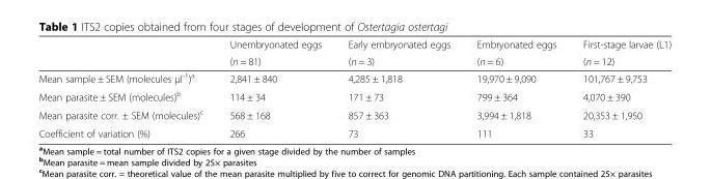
<table><thead><tr><td rowspan="2"></td><td rowspan="2">Unembryonated eggs (n = 81)</td><td rowspan="2">Early embryonated eggs (n = 3)</td><td rowspan="2">Embryonated eggs (n = 6)</td><td rowspan="2">First-stage larvae (L1) (n = 12)</td></tr><tr></tr></thead><tbody><tr><td>Mean sample ± SEM (molecules μl<sup>-1</sup>)<sup>a</sup></td><td>2,841 ± 840</td><td>4,285 ± 1,818</td><td>19,970 ± 9,090</td><td>101,767 ± 9,753</td></tr><tr><td>Mean parasite ± SEM (molecules)<sup>b</sup></td><td>114 ± 34</td><td>171 ± 73</td><td>799 ± 364</td><td>4,070 ± 390</td></tr><tr><td>Mean parasite corr. ± SEM (molecules)<sup>c</sup></td><td>568 ± 168</td><td>857 ± 363</td><td>3,994 ± 1,818</td><td>20,353 ± 1,950</td></tr><tr><td>Coefficient of variation (%)</td><td>266</td><td>73</td><td>111</td><td>33</td></tr></tbody></table>